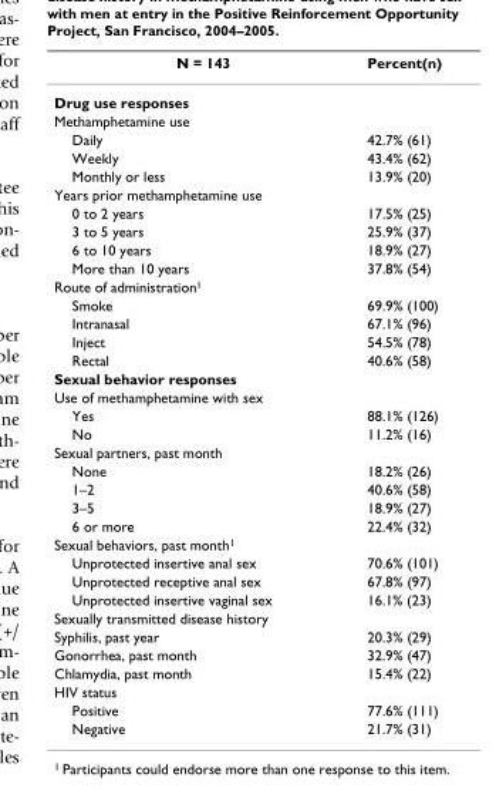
<table><thead><tr><td>N = 143</td><td>Percent(n)</td></tr></thead><tbody><tr><td colspan="2">Drug use responses</td></tr><tr><td colspan="2">Methamphetamine use</td></tr><tr><td>Daily</td><td>42.7% (61)</td></tr><tr><td>Weekly</td><td>43.4% (62)</td></tr><tr><td>Monthly or less</td><td>13.9% (20)</td></tr><tr><td colspan="2">Years prior methamphetamine use</td></tr><tr><td>0 to 2 years</td><td>17.5% (25)</td></tr><tr><td>3 to 5 years</td><td>25.9% (37)</td></tr><tr><td>6 to 10 years</td><td>18.9% (27)</td></tr><tr><td>More than 10 years</td><td>37.8% (54)</td></tr><tr><td colspan="2">Route of administration1</td></tr><tr><td>Smoke</td><td>69.9% (100)</td></tr><tr><td>Intranasal</td><td>67.1% (96)</td></tr><tr><td>Inject</td><td>54.5% (78)</td></tr><tr><td>Rectal</td><td>40.6% (58)</td></tr><tr><td colspan="2">Sexual behavior responses</td></tr><tr><td colspan="2">Use of methamphetamine with sex</td></tr><tr><td>Yes</td><td>88.1% (126)</td></tr><tr><td>No</td><td>11.2% (16)</td></tr><tr><td colspan="2">Sexual partners, past month</td></tr><tr><td>None</td><td>18.2% (26)</td></tr><tr><td>1–2</td><td>40.6% (58)</td></tr><tr><td>3–5</td><td>18.9% (27)</td></tr><tr><td>6 or more</td><td>22.4% (32)</td></tr><tr><td colspan="2">Sexual behaviors, past month1</td></tr><tr><td>Unprotected insertive anal sex</td><td>70.6% (101)</td></tr><tr><td>Unprotected receptive anal sex</td><td>67.8% (97)</td></tr><tr><td>Unprotected insertive vaginal sex</td><td>16.1% (23)</td></tr><tr><td colspan="2">Sexually transmitted disease history</td></tr><tr><td>Syphilis, past year</td><td>20.3% (29)</td></tr><tr><td>Gonorrhea, past month</td><td>32.9% (47)</td></tr><tr><td>Chlamydia, past month</td><td>15.4% (22)</td></tr><tr><td colspan="2">HIV status</td></tr><tr><td>Positive</td><td>77.6% (111)</td></tr><tr><td>Negative</td><td>21.7% (31)</td></tr></tbody></table>